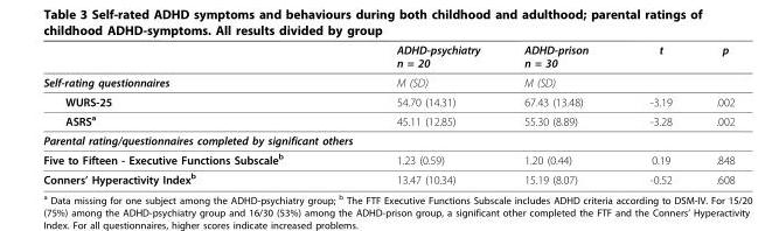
<table><thead><tr><td></td><td>ADHD-psychiatry n = 20</td><td>ADHD-prison n = 30</td><td>t</td><td>p</td></tr></thead><tbody><tr><td>Self-rating questionnaires</td><td>M (SD)</td><td>M (SD)</td><td></td><td></td></tr><tr><td>WURS-25</td><td>54.70 (14.31)</td><td>67.43 (13.48)</td><td>-3.19</td><td>.002</td></tr><tr><td>ASRS<sup>a</sup></td><td>45.11 (12.85)</td><td>55.30 (8.89)</td><td>-3.28</td><td>.002</td></tr><tr><td colspan="5">Parental rating/questionnaires completed by significant others</td></tr><tr><td>Five to Fifteen - Executive Functions Subscale<sup>b</sup></td><td>1.23 (0.59)</td><td>1.20 (0.44)</td><td>0.19</td><td>.848</td></tr><tr><td>Conners’ Hyperactivity Index<sup>b</sup></td><td>13.47 (10.34)</td><td>15.19 (8.07)</td><td>-0.52</td><td>.608</td></tr></tbody></table>